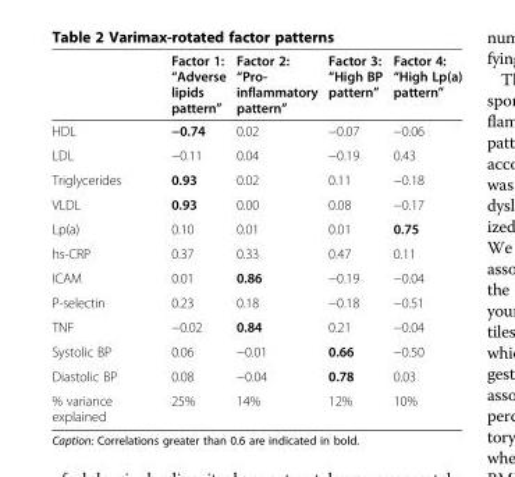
<table><thead><tr><td></td><td>Factor 1: “Adverse lipids pattern”</td><td>Factor 2: “Pro- inflammatory pattern”</td><td>Factor 3: “High BP pattern”</td><td>Factor 4: “High Lp(a) pattern”</td></tr></thead><tbody><tr><td>HDL</td><td>−0.74</td><td>0.02</td><td>−0.07</td><td>−0.06</td></tr><tr><td>LDL</td><td>−0.11</td><td>0.04</td><td>−0.19</td><td>0.43</td></tr><tr><td>Triglycerides</td><td>0.93</td><td>0.02</td><td>0.11</td><td>−0.18</td></tr><tr><td>VLDL</td><td>0.93</td><td>0.00</td><td>0.08</td><td>−0.17</td></tr><tr><td>Lp(a)</td><td>0.10</td><td>0.01</td><td>0.01</td><td>0.75</td></tr><tr><td>hs-CRP</td><td>0.37</td><td>0.33</td><td>0.47</td><td>0.11</td></tr><tr><td>ICAM</td><td>0.01</td><td>0.86</td><td>−0.19</td><td>−0.04</td></tr><tr><td>P-selectin</td><td>0.23</td><td>0.18</td><td>−0.18</td><td>−0.51</td></tr><tr><td>TNF</td><td>−0.02</td><td>0.84</td><td>0.21</td><td>−0.04</td></tr><tr><td>Systolic BP</td><td>0.06</td><td>−0.01</td><td>0.66</td><td>−0.50</td></tr><tr><td>Diastolic BP</td><td>0.08</td><td>−0.04</td><td>0.78</td><td>0.03</td></tr><tr><td>% variance explained</td><td>25%</td><td>14%</td><td>12%</td><td>10%</td></tr></tbody></table>